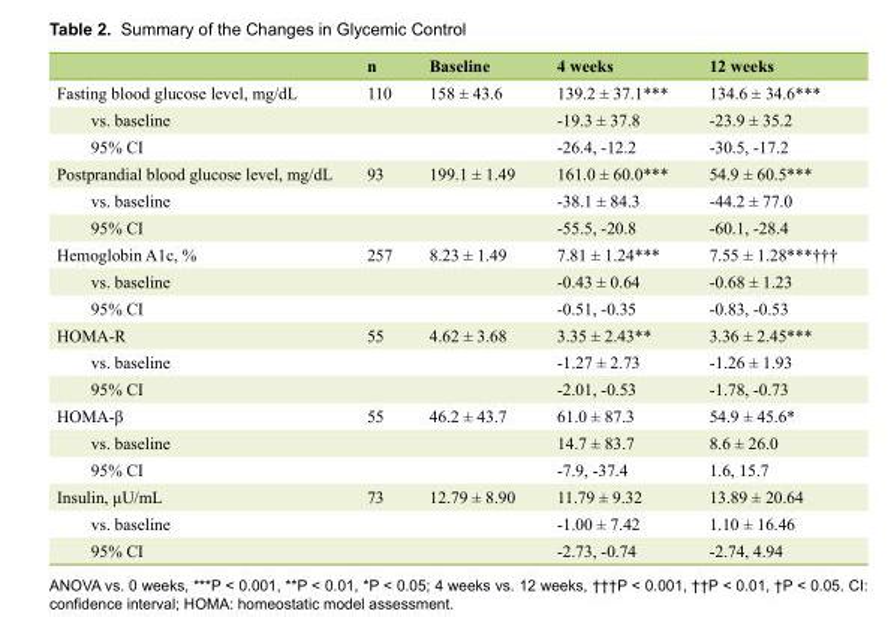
<table><thead><tr><td></td><td>n</td><td>Baseline</td><td>4 weeks</td><td>12 weeks</td></tr></thead><tbody><tr><td>Fasting blood glucose level, mg/dL</td><td>110</td><td>158 ± 43.6</td><td>139.2 ± 37.1***</td><td>134.6 ± 34.6***</td></tr><tr><td>vs. baseline</td><td></td><td></td><td>-19.3 ± 37.8</td><td>-23.9 ± 35.2</td></tr><tr><td>95% CI</td><td></td><td></td><td>-26.4, -12.2</td><td>-30.5, -17.2</td></tr><tr><td>Postprandial blood glucose level, mg/dL</td><td>93</td><td>199.1 ± 1.49</td><td>161.0 ± 60.0***</td><td>54.9 ± 60.5***</td></tr><tr><td>vs. baseline</td><td></td><td></td><td>-38.1 ± 84.3</td><td>-44.2 ± 77.0</td></tr><tr><td>95% CI</td><td></td><td></td><td>-55.5, -20.8</td><td>-60.1, -28.4</td></tr><tr><td>Hemoglobin A1c, %</td><td>257</td><td>8.23 ± 1.49</td><td>7.81 ± 1.24***</td><td>7.55 ± 1.28***†††</td></tr><tr><td>vs. baseline</td><td></td><td></td><td>-0.43 ± 0.64</td><td>-0.68 ± 1.23</td></tr><tr><td>95% CI</td><td></td><td></td><td>-0.51, -0.35</td><td>-0.83, -0.53</td></tr><tr><td>HOMA-R</td><td>55</td><td>4.62 ± 3.68</td><td>3.35 ± 2.43**</td><td>3.36 ± 2.45***</td></tr><tr><td>vs. baseline</td><td></td><td></td><td>-1.27 ± 2.73</td><td>-1.26 ± 1.93</td></tr><tr><td>95% CI</td><td></td><td></td><td>-2.01, -0.53</td><td>-1.78, -0.73</td></tr><tr><td>HOMA-β</td><td>55</td><td>46.2 ± 43.7</td><td>61.0 ± 87.3</td><td>54.9 ± 45.6*</td></tr><tr><td>vs. baseline</td><td></td><td></td><td>14.7 ± 83.7</td><td>8.6 ± 26.0</td></tr><tr><td>95% CI</td><td></td><td></td><td>-7.9, -37.4</td><td>1.6, 15.7</td></tr><tr><td>Insulin, μU/mL</td><td>73</td><td>12.79 ± 8.90</td><td>11.79 ± 9.32</td><td>13.89 ± 20.64</td></tr><tr><td>vs. baseline</td><td></td><td></td><td>-1.00 ± 7.42</td><td>1.10 ± 16.46</td></tr><tr><td>95% CI</td><td></td><td></td><td>-2.73, -0.74</td><td>-2.74, 4.94</td></tr></tbody></table>